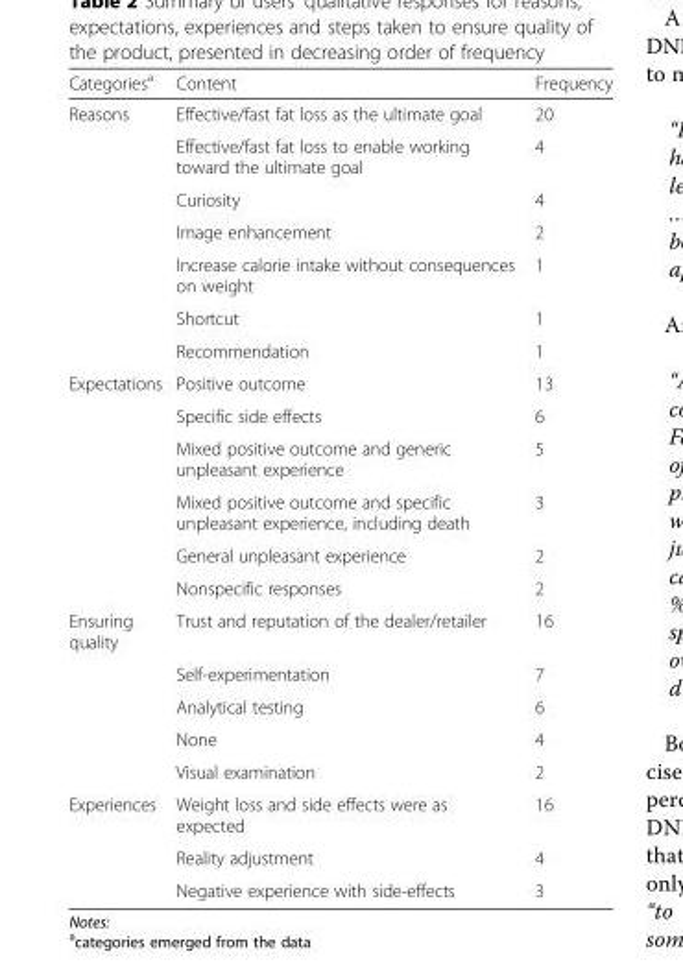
<table><thead><tr><td>Categories<sup>a</sup></td><td>Content</td><td>Frequency</td></tr></thead><tbody><tr><td rowspan="7">Reasons</td><td>Effective/fast fat loss as the ultimate goal</td><td>20</td></tr><tr><td>Effective/fast fat loss to enable working toward the ultimate goal</td><td>4</td></tr><tr><td>Curiosity</td><td>4</td></tr><tr><td>Image enhancement</td><td>2</td></tr><tr><td>Increase calorie intake without consequences on weight</td><td>1</td></tr><tr><td>Shortcut</td><td>1</td></tr><tr><td>Recommendation</td><td>1</td></tr><tr><td rowspan="6">Expectations</td><td>Positive outcome</td><td>13</td></tr><tr><td>Specific side effects</td><td>6</td></tr><tr><td>Mixed positive outcome and generic unpleasant experience</td><td>5</td></tr><tr><td>Mixed positive outcome and specific unpleasant experience, including death</td><td>3</td></tr><tr><td>General unpleasant experience</td><td>2</td></tr><tr><td>Nonspecific responses</td><td>2</td></tr><tr><td rowspan="5">Ensuring quality</td><td>Trust and reputation of the dealer/retailer</td><td>16</td></tr><tr><td>Self-experimentation</td><td>7</td></tr><tr><td>Analytical testing</td><td>6</td></tr><tr><td>None</td><td>4</td></tr><tr><td>Visual examination</td><td>2</td></tr><tr><td rowspan="3">Experiences</td><td>Weight loss and side effects were as expected</td><td>16</td></tr><tr><td>Reality adjustment</td><td>4</td></tr><tr><td>Negative experience with side-effects</td><td>3</td></tr></tbody></table>